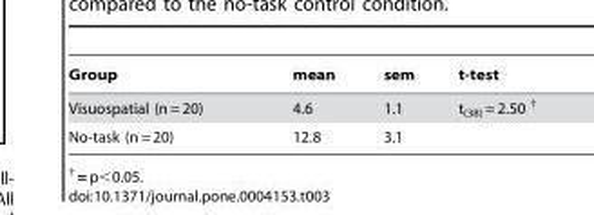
<table><thead><tr><td>Group</td><td>mean</td><td>sem</td><td>t-test</td></tr></thead><tbody><tr><td>Visuospatial (n = 20)</td><td>4.6</td><td>1.1</td><td>t(38) = 2.50</td></tr><tr><td>No-task (n = 20)</td><td>12.8</td><td>3.1</td><td></td></tr></tbody></table>